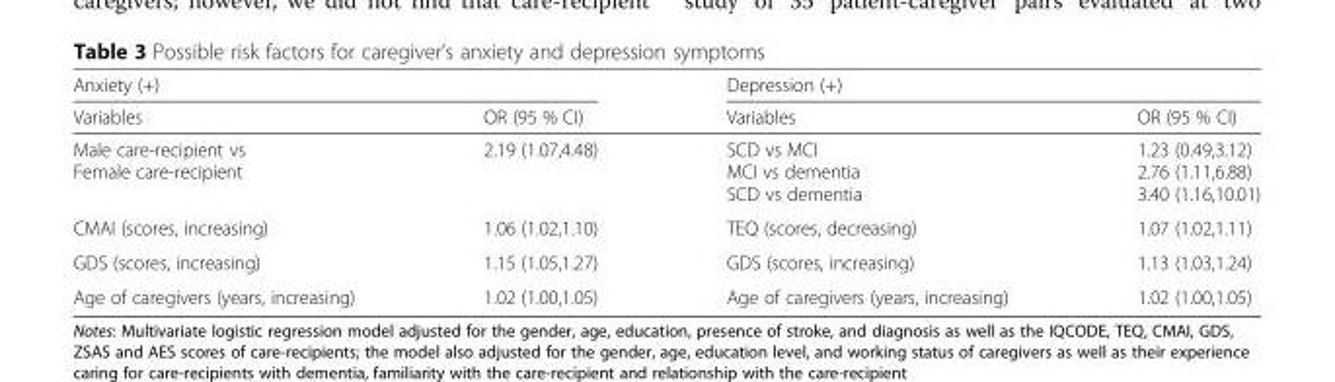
<table><thead><tr><td colspan="2">Anxiety (+)</td><td colspan="2">Depression (+)</td></tr><tr><td>Variables</td><td>OR (95 % CI)</td><td>Variables</td><td>OR (95 % CI)</td></tr></thead><tbody><tr><td>Male care-recipient vs Female care-recipient</td><td>2.19 (1.07,4.48)</td><td>SCD vs MCI MCI vs dementia SCD vs dementia</td><td>1.23 (0.49,3.12) 2.76 (1.11,6.88) 3.40 (1.16,10.01)</td></tr><tr><td>CMAI (scores, increasing)</td><td>1.06 (1.02,1.10)</td><td>TEQ (scores, decreasing)</td><td>1.07 (1.02,1.11)</td></tr><tr><td>GDS (scores, increasing)</td><td>1.15 (1.05,1.27)</td><td>GDS (scores, increasing)</td><td>1.13 (1.03,1.24)</td></tr><tr><td>Age of caregivers (years, increasing)</td><td>1.02 (1.00,1.05)</td><td>Age of caregivers (years, increasing)</td><td>1.02 (1.00,1.05)</td></tr></tbody></table>